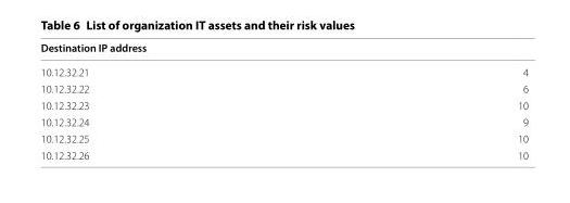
<table><thead><tr><td>Destination IP address</td><td></td></tr></thead><tbody><tr><td>10.12.32.21</td><td>4</td></tr><tr><td>10.12.32.22</td><td>6</td></tr><tr><td>10.12.32.23</td><td>10</td></tr><tr><td>10.12.32.24</td><td>9</td></tr><tr><td>10.12.32.25</td><td>10</td></tr><tr><td>10.12.32.26</td><td>10</td></tr></tbody></table>